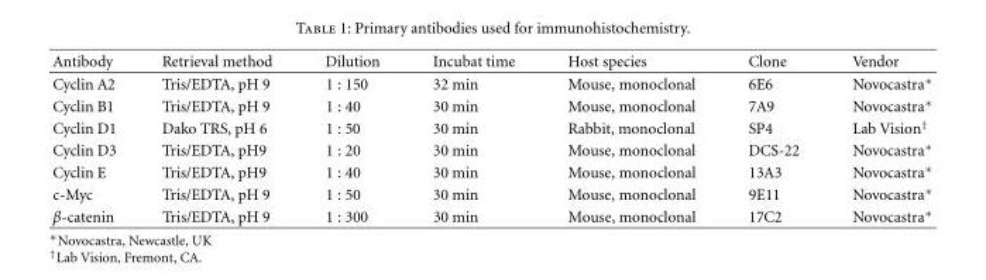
<table><thead><tr><td>Antibody</td><td>Retrieval method</td><td>Dilution</td><td>Incubat time</td><td>Host species</td><td>Clone</td><td>Vendor</td></tr></thead><tbody><tr><td>Cyclin A2</td><td>Tris/EDTA, pH 9</td><td>1 : 150</td><td>32 min</td><td>Mouse, monoclonal</td><td>6E6</td><td>Novocastra∗</td></tr><tr><td>Cyclin B1</td><td>Tris/EDTA, pH 9</td><td>1 : 40</td><td>30 min</td><td>Mouse, monoclonal</td><td>7A9</td><td>Novocastra∗</td></tr><tr><td>Cyclin D1</td><td>Dako TRS, pH 6</td><td>1 : 50</td><td>30 min</td><td>Rabbit, monoclonal</td><td>SP4</td><td>Lab Vision<sup>†</sup></td></tr><tr><td>Cyclin D3</td><td>Tris/EDTA, pH9</td><td>1 : 20</td><td>30 min</td><td>Mouse, monoclonal</td><td>DCS-22</td><td>Novocastra∗</td></tr><tr><td>Cyclin E</td><td>Tris/EDTA, pH9</td><td>1 : 40</td><td>30 min</td><td>Mouse, monoclonal</td><td>13A3</td><td>Novocastra∗</td></tr><tr><td>c-Myc</td><td>Tris/EDTA, pH 9</td><td>1 : 50</td><td>30 min</td><td>Mouse, monoclonal</td><td>9E11</td><td>Novocastra∗</td></tr><tr><td>β-catenin</td><td>Tris/EDTA, pH 9</td><td>1 : 300</td><td>30 min</td><td>Mouse, monoclonal</td><td>17C2</td><td>Novocastra∗</td></tr></tbody></table>